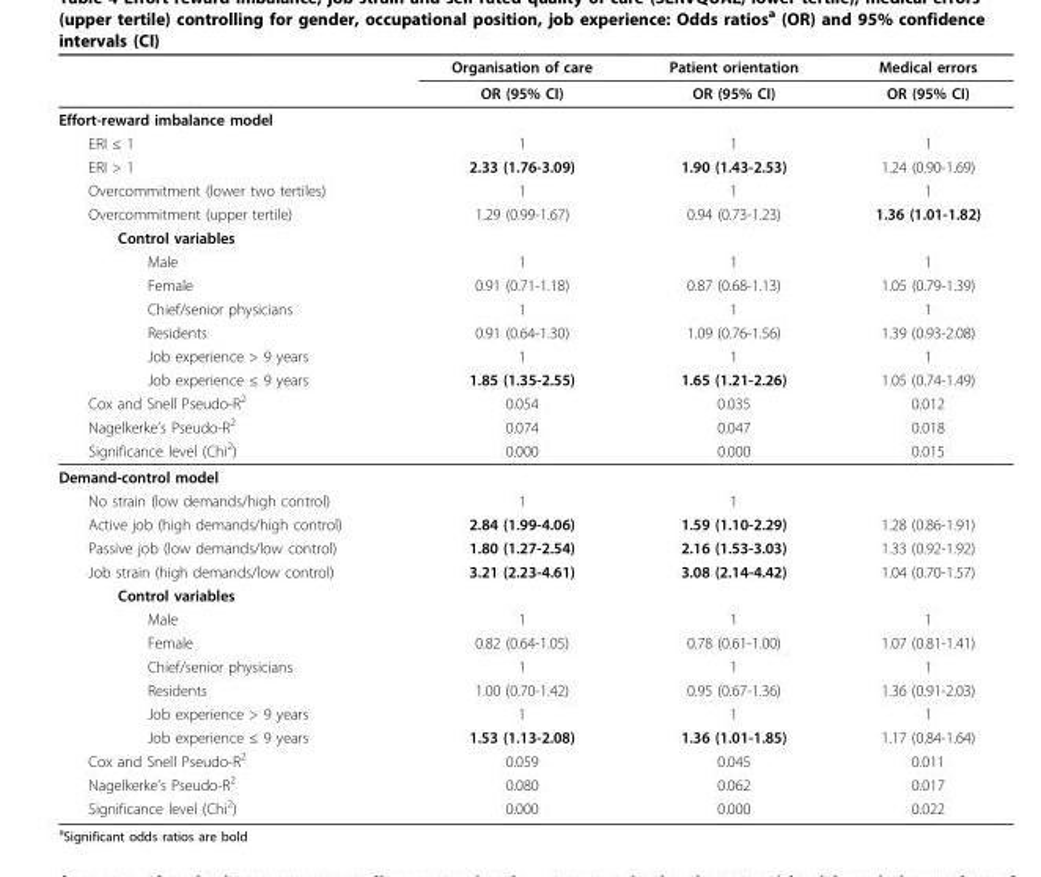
<table><thead><tr><td rowspan="2"></td><td rowspan="2">Organisation of care OR (95% CI)</td><td rowspan="2">Patient orientation OR (95% CI)</td><td rowspan="2">Medical errors OR (95% CI)</td></tr><tr></tr></thead><tbody><tr><td colspan="4">Effort-reward imbalance model</td></tr><tr><td>ERI ≤ 1</td><td>1</td><td>1</td><td>1</td></tr><tr><td>ERI &gt; 1</td><td>2.33 (1.76-3.09)</td><td>1.90 (1.43-2.53)</td><td>1.24 (0.90-1.69)</td></tr><tr><td>Overcommitment (lower two tertiles)</td><td>1</td><td>1</td><td>1</td></tr><tr><td>Overcommitment (upper tertile)</td><td>1.29 (0.99-1.67)</td><td>0.94 (0.73-1.23)</td><td>1.36 (1.01-1.82)</td></tr><tr><td colspan="4">Control variables</td></tr><tr><td>Male</td><td>1</td><td>1</td><td>1</td></tr><tr><td>Female</td><td>0.91 (0.71-1.18)</td><td>0.87 (0.68-1.13)</td><td>1.05 (0.79-1.39)</td></tr><tr><td>Chief/senior physicians</td><td>1</td><td>1</td><td>1</td></tr><tr><td>Residents</td><td>0.91 (0.64-1.30)</td><td>1.09 (0.76-1.56)</td><td>1.39 (0.93-2.08)</td></tr><tr><td>Job experience &gt; 9 years</td><td>1</td><td>1</td><td>1</td></tr><tr><td>Job experience ≤ 9 years</td><td>1.85 (1.35-2.55)</td><td>1.65 (1.21-2.26)</td><td>1.05 (0.74-1.49)</td></tr><tr><td>Cox and Snell Pseudo-R<sup>2</sup></td><td>0.054</td><td>0.035</td><td>0.012</td></tr><tr><td>Nagelkerke’s Pseudo-R<sup>2</sup></td><td>0.074</td><td>0.047</td><td>0.018</td></tr><tr><td>Significance level (Chi<sup>2</sup>)</td><td>0.000</td><td>0.000</td><td>0.015</td></tr><tr><td colspan="4">Demand-control model</td></tr><tr><td>No strain (low demands/high control)</td><td>1</td><td>1</td><td></td></tr><tr><td>Active job (high demands/high control)</td><td>2.84 (1.99-4.06)</td><td>1.59 (1.10-2.29)</td><td>1.28 (0.86-1.91)</td></tr><tr><td>Passive job (low demands/low control)</td><td>1.80 (1.27-2.54)</td><td>2.16 (1.53-3.03)</td><td>1.33 (0.92-1.92)</td></tr><tr><td>Job strain (high demands/low control)</td><td>3.21 (2.23-4.61)</td><td>3.08 (2.14-4.42)</td><td>1.04 (0.70-1.57)</td></tr><tr><td colspan="4">Control variables</td></tr><tr><td>Male</td><td>1</td><td>1</td><td>1</td></tr><tr><td>Female</td><td>0.82 (0.64-1.05)</td><td>0.78 (0.61-1.00)</td><td>1.07 (0.81-1.41)</td></tr><tr><td>Chief/senior physicians</td><td>1</td><td>1</td><td>1</td></tr><tr><td>Residents</td><td>1.00 (0.70-1.42)</td><td>0.95 (0.67-1.36)</td><td>1.36 (0.91-2.03)</td></tr><tr><td>Job experience &gt; 9 years</td><td>1</td><td>1</td><td>1</td></tr><tr><td>Job experience ≤ 9 years</td><td>1.53 (1.13-2.08)</td><td>1.36 (1.01-1.85)</td><td>1.17 (0.84-1.64)</td></tr><tr><td>Cox and Snell Pseudo-R<sup>2</sup></td><td>0.059</td><td>0.045</td><td>0.011</td></tr><tr><td>Nagelkerke’s Pseudo-R<sup>2</sup></td><td>0.080</td><td>0.062</td><td>0.017</td></tr><tr><td>Significance level (Chi<sup>2</sup>)</td><td>0.000</td><td>0.000</td><td>0.022</td></tr></tbody></table>